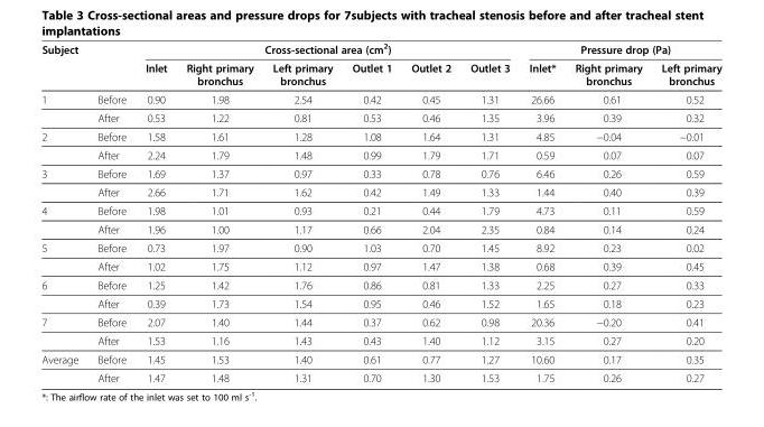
<table><thead><tr><td rowspan="2">Subject</td><td rowspan="2"></td><td colspan="6">Cross-sectional area (cm<sup>2</sup>)</td><td colspan="3">Pressure drop (Pa)</td></tr><tr><td>Inlet</td><td>Right primary bronchus</td><td>Left primary bronchus</td><td>Outlet 1</td><td>Outlet 2</td><td>Outlet 3</td><td>Inlet*</td><td>Right primary bronchus</td><td>Left primary bronchus</td></tr></thead><tbody><tr><td rowspan="2">1</td><td>Before</td><td>0.90</td><td>1.98</td><td>2.54</td><td>0.42</td><td>0.45</td><td>1.31</td><td>26.66</td><td>0.61</td><td>0.52</td></tr><tr><td>After</td><td>0.53</td><td>1.22</td><td>0.81</td><td>0.53</td><td>0.46</td><td>1.35</td><td>3.96</td><td>0.39</td><td>0.32</td></tr><tr><td rowspan="2">2</td><td>Before</td><td>1.58</td><td>1.61</td><td>1.28</td><td>1.08</td><td>1.64</td><td>1.31</td><td>4.85</td><td>−0.04</td><td>−0.01</td></tr><tr><td>After</td><td>2.24</td><td>1.79</td><td>1.48</td><td>0.99</td><td>1.79</td><td>1.71</td><td>0.59</td><td>0.07</td><td>0.07</td></tr><tr><td rowspan="2">3</td><td>Before</td><td>1.69</td><td>1.37</td><td>0.97</td><td>0.33</td><td>0.78</td><td>0.76</td><td>6.46</td><td>0.26</td><td>0.59</td></tr><tr><td>After</td><td>2.66</td><td>1.71</td><td>1.62</td><td>0.42</td><td>1.49</td><td>1.33</td><td>1.44</td><td>0.40</td><td>0.39</td></tr><tr><td rowspan="2">4</td><td>Before</td><td>1.98</td><td>1.01</td><td>0.93</td><td>0.21</td><td>0.44</td><td>1.79</td><td>4.73</td><td>0.11</td><td>0.59</td></tr><tr><td>After</td><td>1.96</td><td>1.00</td><td>1.17</td><td>0.66</td><td>2.04</td><td>2.35</td><td>0.84</td><td>0.14</td><td>0.24</td></tr><tr><td rowspan="2">5</td><td>Before</td><td>0.73</td><td>1.97</td><td>0.90</td><td>1.03</td><td>0.70</td><td>1.45</td><td>8.92</td><td>0.23</td><td>0.02</td></tr><tr><td>After</td><td>1.02</td><td>1.75</td><td>1.12</td><td>0.97</td><td>1.47</td><td>1.38</td><td>0.68</td><td>0.39</td><td>0.45</td></tr><tr><td rowspan="2">6</td><td>Before</td><td>1.25</td><td>1.42</td><td>1.76</td><td>0.86</td><td>0.81</td><td>1.33</td><td>2.25</td><td>0.27</td><td>0.33</td></tr><tr><td>After</td><td>0.39</td><td>1.73</td><td>1.54</td><td>0.95</td><td>0.46</td><td>1.52</td><td>1.65</td><td>0.18</td><td>0.23</td></tr><tr><td rowspan="2">7</td><td>Before</td><td>2.07</td><td>1.40</td><td>1.44</td><td>0.37</td><td>0.62</td><td>0.98</td><td>20.36</td><td>−0.20</td><td>0.41</td></tr><tr><td>After</td><td>1.53</td><td>1.16</td><td>1.43</td><td>0.43</td><td>1.40</td><td>1.12</td><td>3.15</td><td>0.27</td><td>0.20</td></tr><tr><td rowspan="2">Average</td><td>Before</td><td>1.45</td><td>1.53</td><td>1.40</td><td>0.61</td><td>0.77</td><td>1.27</td><td>10.60</td><td>0.17</td><td>0.35</td></tr><tr><td>After</td><td>1.47</td><td>1.48</td><td>1.31</td><td>0.70</td><td>1.30</td><td>1.53</td><td>1.75</td><td>0.26</td><td>0.27</td></tr></tbody></table>